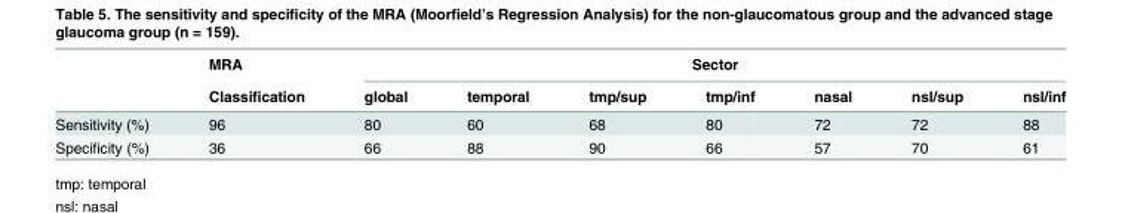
<table><thead><tr><td rowspan="2"></td><td rowspan="2">MRA Classification</td><td colspan="7">Sector</td></tr><tr><td>global</td><td>temporal</td><td>tmp/sup</td><td>tmp/inf</td><td>nasal</td><td>nsl/sup</td><td>nsl/inf</td></tr></thead><tbody><tr><td>Sensitivity (%)</td><td>96</td><td>80</td><td>60</td><td>68</td><td>80</td><td>72</td><td>72</td><td>88</td></tr><tr><td>Specificity (%)</td><td>36</td><td>66</td><td>88</td><td>90</td><td>66</td><td>57</td><td>70</td><td>61</td></tr></tbody></table>